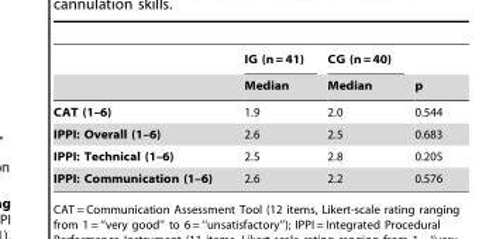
<table><thead><tr><td rowspan="2"></td><td rowspan="2">IG (n = 41) Median</td><td rowspan="2">CG (n = 40) Median</td><td rowspan="2">p</td></tr><tr></tr></thead><tbody><tr><td>CAT (1–6)</td><td>1.9</td><td>2.0</td><td>0.544</td></tr><tr><td>IPPI: Overall (1–6)</td><td>2.6</td><td>2.5</td><td>0.683</td></tr><tr><td>IPPI: Technical (1–6)</td><td>2.5</td><td>2.8</td><td>0.205</td></tr><tr><td>IPPI: Communication (1–6)</td><td>2.6</td><td>2.2</td><td>0.576</td></tr></tbody></table>